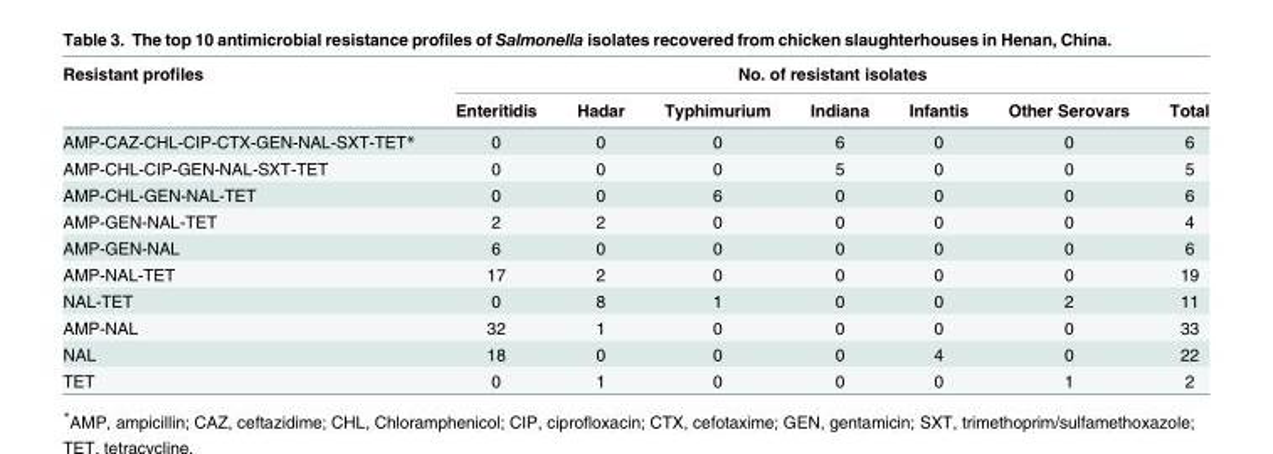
<table><thead><tr><td rowspan="2">Resistant profiles</td><td colspan="7">No. of resistant isolates</td></tr><tr><td>Enteritidis</td><td>Hadar</td><td>Typhimurium</td><td>Indiana</td><td>Infantis</td><td>Other Serovars</td><td>Total</td></tr></thead><tbody><tr><td>AMP-CAZ-CHL-CIP-CTX-GEN-NAL-SXT-TET*</td><td>0</td><td>0</td><td>0</td><td>6</td><td>0</td><td>0</td><td>6</td></tr><tr><td>AMP-CHL-CIP-GEN-NAL-SXT-TET</td><td>0</td><td>0</td><td>0</td><td>5</td><td>0</td><td>0</td><td>5</td></tr><tr><td>AMP-CHL-GEN-NAL-TET</td><td>0</td><td>0</td><td>6</td><td>0</td><td>0</td><td>0</td><td>6</td></tr><tr><td>AMP-GEN-NAL-TET</td><td>2</td><td>2</td><td>0</td><td>0</td><td>0</td><td>0</td><td>4</td></tr><tr><td>AMP-GEN-NAL</td><td>6</td><td>0</td><td>0</td><td>0</td><td>0</td><td>0</td><td>6</td></tr><tr><td>AMP-NAL-TET</td><td>17</td><td>2</td><td>0</td><td>0</td><td>0</td><td>0</td><td>19</td></tr><tr><td>NAL-TET</td><td>0</td><td>8</td><td>1</td><td>0</td><td>0</td><td>2</td><td>11</td></tr><tr><td>AMP-NAL</td><td>32</td><td>1</td><td>0</td><td>0</td><td>0</td><td>0</td><td>33</td></tr><tr><td>NAL</td><td>18</td><td>0</td><td>0</td><td>0</td><td>4</td><td>0</td><td>22</td></tr><tr><td>TET</td><td>0</td><td>1</td><td>0</td><td>0</td><td>0</td><td>1</td><td>2</td></tr></tbody></table>